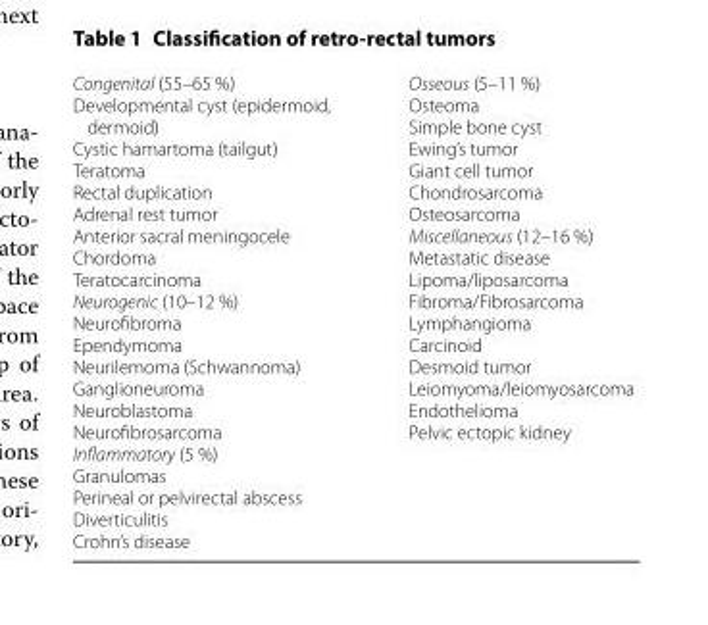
<table><tbody><tr><td>Congenital (55–65 %) Developmental cyst (epidermoid, dermoid) Cystic hamartoma (tailgut) Teratoma Rectal duplication Adrenal rest tumor Anterior sacral meningocele Chordoma Teratocarcinoma Neurogenic (10–12 %) Neurofibroma Ependymoma Neurilemoma (Schwannoma) Ganglioneuroma Neuroblastoma Neurofibrosarcoma Inflammatory (5 %) Granulomas Perineal or pelvirectal abscess Diverticulitis Crohn’s disease</td><td>Osseous (5–11 %) Osteoma Simple bone cyst Ewing’s tumor Giant cell tumor Chondrosarcoma Osteosarcoma Miscellaneous (12–16 %) Metastatic disease Lipoma/liposarcoma Fibroma/Fibrosarcoma Lymphangioma Carcinoid Desmoid tumor Leiomyoma/leiomyosarcoma Endothelioma Pelvic ectopic kidney</td></tr></tbody></table>